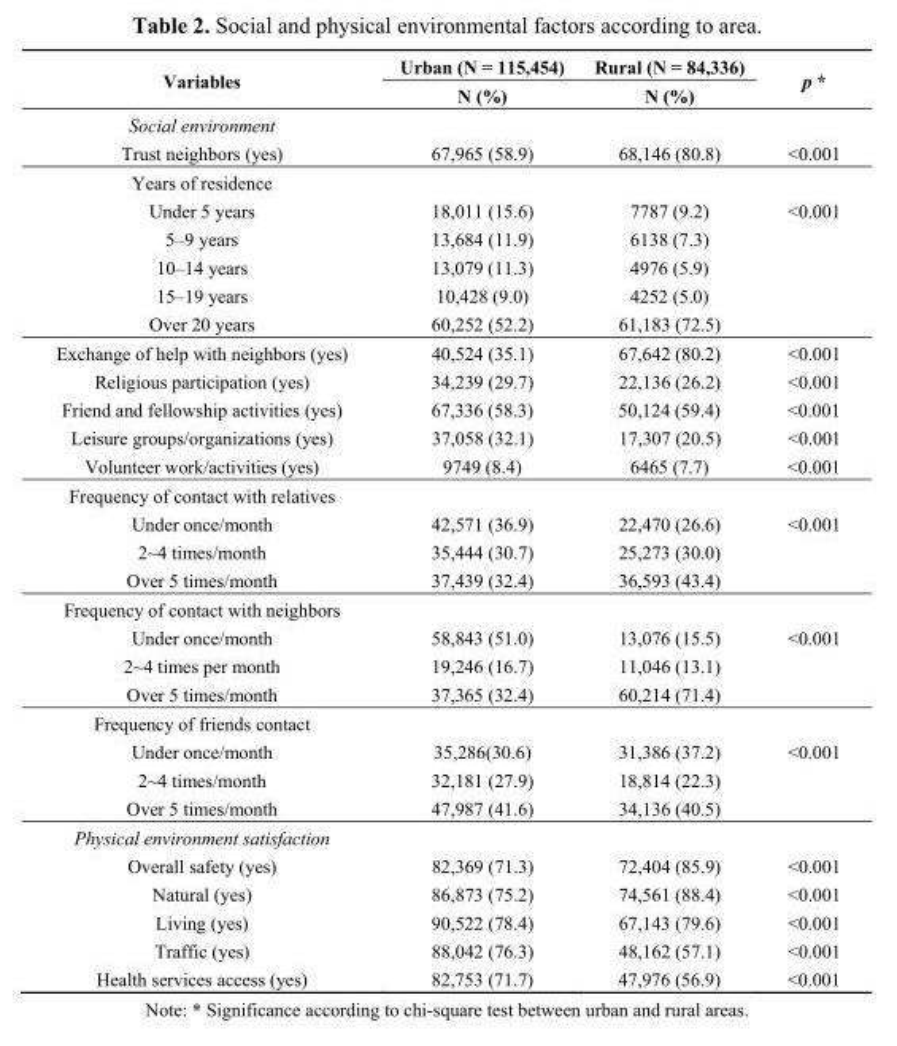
<table><thead><tr><td rowspan="2">Variables</td><td rowspan="2">Urban (N = 115,454) N (%)</td><td rowspan="2">Rural (N = 84,336) N (%)</td><td rowspan="2">p *</td></tr><tr></tr></thead><tbody><tr><td colspan="4">Social environment</td></tr><tr><td>Trust neighbors (yes)</td><td>67,965 (58.9)</td><td>68,146 (80.8)</td><td>&lt;0.001</td></tr><tr><td colspan="4">Years of residence</td></tr><tr><td>Under 5 years</td><td>18,011 (15.6)</td><td>7787 (9.2)</td><td>&lt;0.001</td></tr><tr><td>5–9 years</td><td>13,684 (11.9)</td><td>6138 (7.3)</td><td></td></tr><tr><td>10–14 years</td><td>13,079 (11.3)</td><td>4976 (5.9)</td><td></td></tr><tr><td>15–19 years</td><td>10,428 (9.0)</td><td>4252 (5.0)</td><td></td></tr><tr><td>Over 20 years</td><td>60,252 (52.2)</td><td>61,183 (72.5)</td><td></td></tr><tr><td>Exchange of help with neighbors (yes)</td><td>40,524 (35.1)</td><td>67,642 (80.2)</td><td>&lt;0.001</td></tr><tr><td>Religious participation (yes)</td><td>34,239 (29.7)</td><td>22,136 (26.2)</td><td>&lt;0.001</td></tr><tr><td>Friend and fellowship activities (yes)</td><td>67,336 (58.3)</td><td>50,124 (59.4)</td><td>&lt;0.001</td></tr><tr><td>Leisure groups/organizations (yes)</td><td>37,058 (32.1)</td><td>17,307 (20.5)</td><td>&lt;0.001</td></tr><tr><td>Volunteer work/activities (yes)</td><td>9749 (8.4)</td><td>6465 (7.7)</td><td>&lt;0.001</td></tr><tr><td colspan="4">Frequency of contact with relatives</td></tr><tr><td>Under once/month</td><td>42,571 (36.9)</td><td>22,470 (26.6)</td><td>&lt;0.001</td></tr><tr><td>2~4 times/month</td><td>35,444 (30.7)</td><td>25,273 (30.0)</td><td></td></tr><tr><td>Over 5 times/month</td><td>37,439 (32.4)</td><td>36,593 (43.4)</td><td></td></tr><tr><td colspan="4">Frequency of contact with neighbors</td></tr><tr><td>Under once/month</td><td>58,843 (51.0)</td><td>13,076 (15.5)</td><td>&lt;0.001</td></tr><tr><td>2~4 times per month</td><td>19,246 (16.7)</td><td>11,046 (13.1)</td><td></td></tr><tr><td>Over 5 times/month</td><td>37,365 (32.4)</td><td>60,214 (71.4)</td><td></td></tr><tr><td colspan="4">Frequency of friends contact</td></tr><tr><td>Under once/month</td><td>35,286(30.6)</td><td>31,386 (37.2)</td><td>&lt;0.001</td></tr><tr><td>2~4 times/month</td><td>32,181 (27.9)</td><td>18,814 (22.3)</td><td></td></tr><tr><td>Over 5 times/month</td><td>47,987 (41.6)</td><td>34,136 (40.5)</td><td></td></tr><tr><td colspan="4">Physical environment satisfaction</td></tr><tr><td>Overall safety (yes)</td><td>82,369 (71.3)</td><td>72,404 (85.9)</td><td>&lt;0.001</td></tr><tr><td>Natural (yes)</td><td>86,873 (75.2)</td><td>74,561 (88.4)</td><td>&lt;0.001</td></tr><tr><td>Living (yes)</td><td>90,522 (78.4)</td><td>67,143 (79.6)</td><td>&lt;0.001</td></tr><tr><td>Traffic (yes)</td><td>88,042 (76.3)</td><td>48,162 (57.1)</td><td>&lt;0.001</td></tr><tr><td>Health services access (yes)</td><td>82,753 (71.7)</td><td>47,976 (56.9)</td><td>&lt;0.001</td></tr></tbody></table>